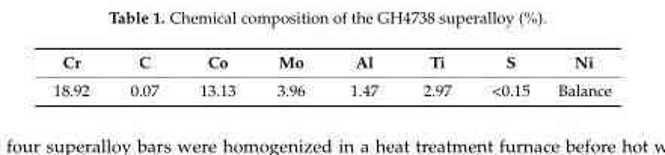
<table><thead><tr><td>Cr</td><td>C</td><td>Co</td><td>Mo</td><td>Al</td><td>Ti</td><td>S</td><td>Ni</td></tr></thead><tbody><tr><td>18.92</td><td>0.07</td><td>13.13</td><td>3.96</td><td>1.47</td><td>2.97</td><td>&lt;0.15</td><td>Balance</td></tr></tbody></table>